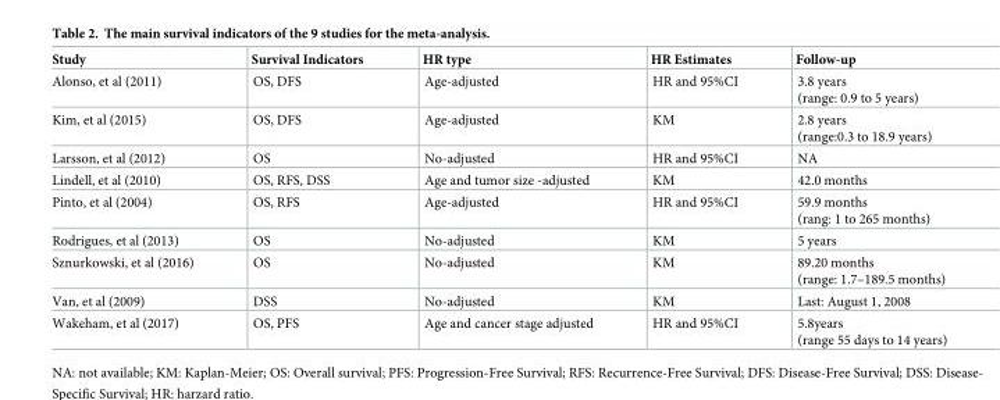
<table><thead><tr><td>Study</td><td>Survival Indicators</td><td>HR type</td><td>HR Estimates</td><td>Follow-up</td></tr></thead><tbody><tr><td>Alonso, et al (2011)</td><td>OS, DFS</td><td>Age-adjusted</td><td>HR and 95%CI</td><td>3.8 years (range: 0.9 to 5 years)</td></tr><tr><td>Kim, et al (2015)</td><td>OS, DFS</td><td>Age-adjusted</td><td>KM</td><td>2.8 years (range:0.3 to 18.9 years)</td></tr><tr><td>Larsson, et al (2012)</td><td>OS</td><td>No-adjusted</td><td>HR and 95%CI</td><td>NA</td></tr><tr><td>Lindell, et al (2010)</td><td>OS, RFS, DSS</td><td>Age and tumor size -adjusted</td><td>KM</td><td>42.0 months</td></tr><tr><td>Pinto, et al (2004)</td><td>OS, RFS</td><td>Age-adjusted</td><td>HR and 95%CI</td><td>59.9 months (rang: 1 to 265 months)</td></tr><tr><td>Rodrigues, et al (2013)</td><td>OS</td><td>No-adjusted</td><td>KM</td><td>5 years</td></tr><tr><td>Sznurkowski, et al (2016)</td><td>OS</td><td>No-adjusted</td><td>KM</td><td>89.20 months (range: 1.7–189.5 months)</td></tr><tr><td>Van, et al (2009)</td><td>DSS</td><td>No-adjusted</td><td>KM</td><td>Last: August 1, 2008</td></tr><tr><td>Wakeham, et al (2017)</td><td>OS, PFS</td><td>Age and cancer stage adjusted</td><td>HR and 95%CI</td><td>5.8years (range 55 days to 14 years)</td></tr></tbody></table>